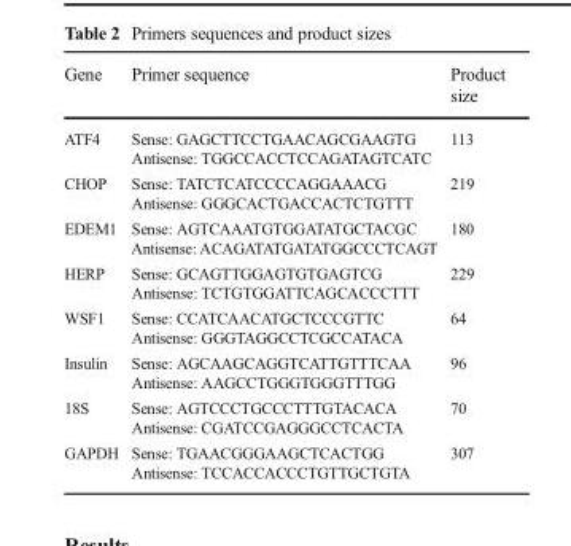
<table><thead><tr><td>Gene</td><td>Primer sequence</td><td>Product size</td></tr></thead><tbody><tr><td rowspan="2">ATF4</td><td>Sense: GAGCTTCCTGAACAGCGAAGTG</td><td rowspan="2">113</td></tr><tr><td>Antisense: TGGCCACCTCCAGATAGTCATC</td></tr><tr><td rowspan="2">CHOP</td><td>Sense: TATCTCATCCCCAGGAAACG</td><td rowspan="2">219</td></tr><tr><td>Antisense: GGGCACTGACCACTCTGTTT</td></tr><tr><td rowspan="2">EDEM1</td><td>Sense: AGTCAAATGTGGATATGCTACGC</td><td rowspan="2">180</td></tr><tr><td>Antisense: ACAGATATGATATGGCCCTCAGT</td></tr><tr><td rowspan="2">HERP</td><td>Sense: GCAGTTGGAGTGTGAGTCG</td><td rowspan="2">229</td></tr><tr><td>Antisense: TCTGTGGATTCAGCACCCTTT</td></tr><tr><td rowspan="2">WSF1</td><td>Sense: CCATCAACATGCTCCCGTTC</td><td rowspan="2">64</td></tr><tr><td>Antisense: GGGTAGGCCTCGCCATACA</td></tr><tr><td rowspan="2">Insulin</td><td>Sense: AGCAAGCAGGTCATTGTTTCAA</td><td rowspan="2">96</td></tr><tr><td>Antisense: AAGCCTGGGTGGGTTTGG</td></tr><tr><td rowspan="2">18S</td><td>Sense: AGTCCCTGCCCTTTGTACACA</td><td rowspan="2">70</td></tr><tr><td>Antisense: CGATCCGAGGGCCTCACTA</td></tr><tr><td rowspan="2">GAPDH</td><td>Sense: TGAACGGGAAGCTCACTGG</td><td rowspan="2">307</td></tr><tr><td>Antisense: TCCACCACCCTGTTGCTGTA</td></tr></tbody></table>